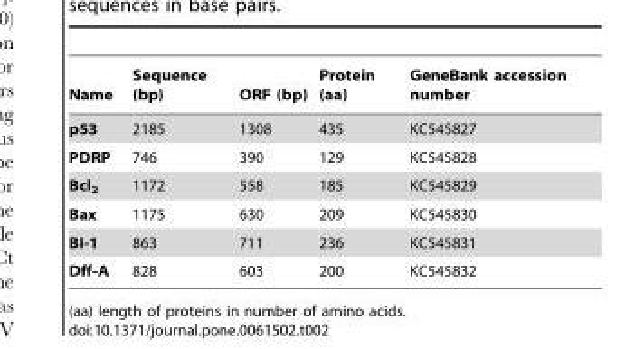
<table><thead><tr><td>Name</td><td>Sequence (bp)</td><td>ORF (bp)</td><td>Protein (aa)</td><td>GeneBank accession number</td></tr></thead><tbody><tr><td>p53</td><td>2185</td><td>1308</td><td>435</td><td>KC545827</td></tr><tr><td>PDRP</td><td>746</td><td>390</td><td>129</td><td>KC545828</td></tr><tr><td>Bcl<sub>2</sub></td><td>1172</td><td>558</td><td>185</td><td>KC545829</td></tr><tr><td>Bax</td><td>1175</td><td>630</td><td>209</td><td>KC545830</td></tr><tr><td>BI-1</td><td>863</td><td>711</td><td>236</td><td>KC545831</td></tr><tr><td>Dff-A</td><td>828</td><td>603</td><td>200</td><td>KC545832</td></tr></tbody></table>